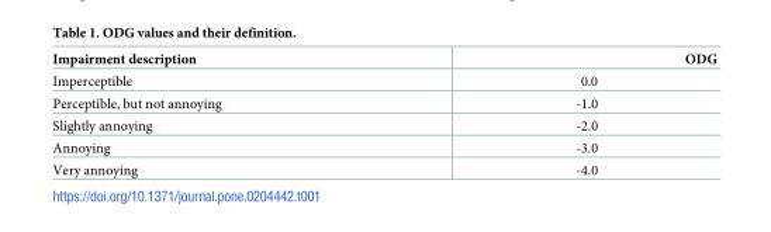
<table><thead><tr><td>Impairment description</td><td>ODG</td></tr></thead><tbody><tr><td>Imperceptible</td><td>0.0</td></tr><tr><td>Perceptible, but not annoying</td><td>-1.0</td></tr><tr><td>Slightly annoying</td><td>-2.0</td></tr><tr><td>Annoying</td><td>-3.0</td></tr><tr><td>Very annoying</td><td>-4.0</td></tr></tbody></table>